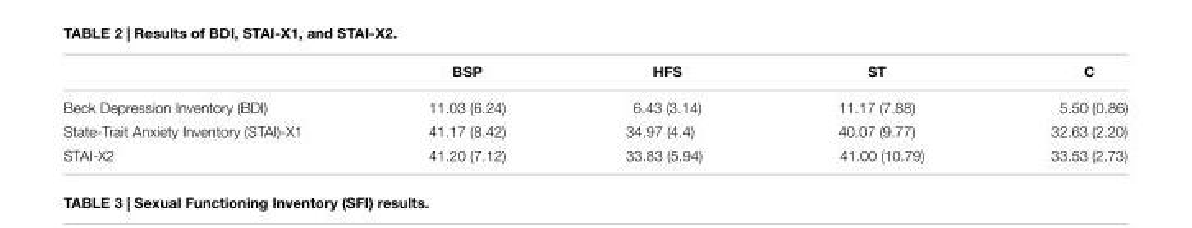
<table><thead><tr><td></td><td>BSP</td><td>HFS</td><td>ST</td><td>C</td></tr></thead><tbody><tr><td>Beck Depression Inventory (BDI)</td><td>11.03 (6.24)</td><td>6.43 (3.14)</td><td>11.17 (7.88)</td><td>5.50 (0.86)</td></tr><tr><td>State-Trait Anxiety Inventory (STAI)-X1</td><td>41.17 (8.42)</td><td>34.97 (4.4)</td><td>40.07 (9.77)</td><td>32.63 (2.20)</td></tr><tr><td>STAI-X2</td><td>41.20 (7.12)</td><td>33.83 (5.94)</td><td>41.00 (10.79)</td><td>33.53 (2.73)</td></tr></tbody></table>